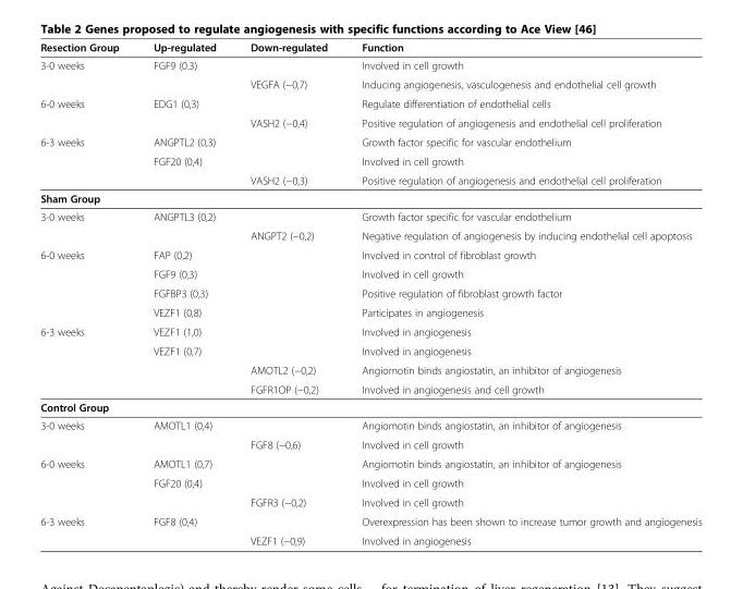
<table><thead><tr><td>Resection Group</td><td>Up-regulated</td><td>Down-regulated</td><td>Function</td></tr></thead><tbody><tr><td rowspan="2">3-0 weeks</td><td>FGF9 (0.3)</td><td></td><td>Involved in cell growth</td></tr><tr><td></td><td>VEGFA (−0,7)</td><td>Inducing angiogenesis, vasculogenesis and endothelial cell growth</td></tr><tr><td rowspan="2">6-0 weeks</td><td>EDG1 (0,3)</td><td></td><td>Regulate differentiation of endothelial cells</td></tr><tr><td></td><td>VASH2 (−0,4)</td><td>Positive regulation of angiogenesis and endothelial cell proliferation</td></tr><tr><td rowspan="3">6-3 weeks</td><td>ANGPTL2 (0,3)</td><td></td><td>Growth factor specific for vascular endothelium</td></tr><tr><td>FGF20 (0,4)</td><td></td><td>Involved in cell growth</td></tr><tr><td></td><td>VASH2 (−0,3)</td><td>Positive regulation of angiogenesis and endothelial cell proliferation</td></tr><tr><td colspan="4">Sham Group</td></tr><tr><td rowspan="2">3-0 weeks</td><td>ANGPTL3 (0,2)</td><td></td><td>Growth factor specific for vascular endothelium</td></tr><tr><td></td><td>ANGPT2 (−0,2)</td><td>Negative regulation of angiogenesis by inducing endothelial cell apoptosis</td></tr><tr><td rowspan="4">6-0 weeks</td><td>FAP (0,2)</td><td></td><td>Involved in control of fibroblast growth</td></tr><tr><td>FGF9 (0,3)</td><td></td><td>Involved in cell growth</td></tr><tr><td>FGFBP3 (0,3)</td><td></td><td>Positive regulation of fibroblast growth factor</td></tr><tr><td>VEZF1 (0,8)</td><td></td><td>Participates in angiogenesis</td></tr><tr><td rowspan="4">6-3 weeks</td><td>VEZF1 (1,0)</td><td></td><td>Involved in angiogenesis</td></tr><tr><td>VEZF1 (0,7)</td><td></td><td>Involved in angiogenesis</td></tr><tr><td></td><td>AMOTL2 (−0,2)</td><td>Angiomotin binds angiostatin, an inhibitor of angiogenesis</td></tr><tr><td></td><td>FGFR1OP (−0,2)</td><td>Involved in angiogenesis and cell growth</td></tr><tr><td colspan="4">Control Group</td></tr><tr><td rowspan="2">3-0 weeks</td><td>AMOTL1 (0,4)</td><td></td><td>Angiomotin binds angiostatin, an inhibitor of angiogenesis</td></tr><tr><td></td><td>FGF8 (−0,6)</td><td>Involved in cell growth</td></tr><tr><td rowspan="3">6-0 weeks</td><td>AMOTL1 (0,7)</td><td></td><td>Angiomotin binds angiostatin, an inhibitor of angiogenesis</td></tr><tr><td>FGF20 (0,4)</td><td></td><td>Involved in cell growth</td></tr><tr><td></td><td>FGFR3 (−0,2)</td><td>Involved in cell growth</td></tr><tr><td rowspan="2">6-3 weeks</td><td>FGF8 (0,4)</td><td></td><td>Overexpression has been shown to increase tumor growth and angiogenesis</td></tr><tr><td></td><td>VEZF1 (−0,9)</td><td>Involved in angiogenesis</td></tr></tbody></table>